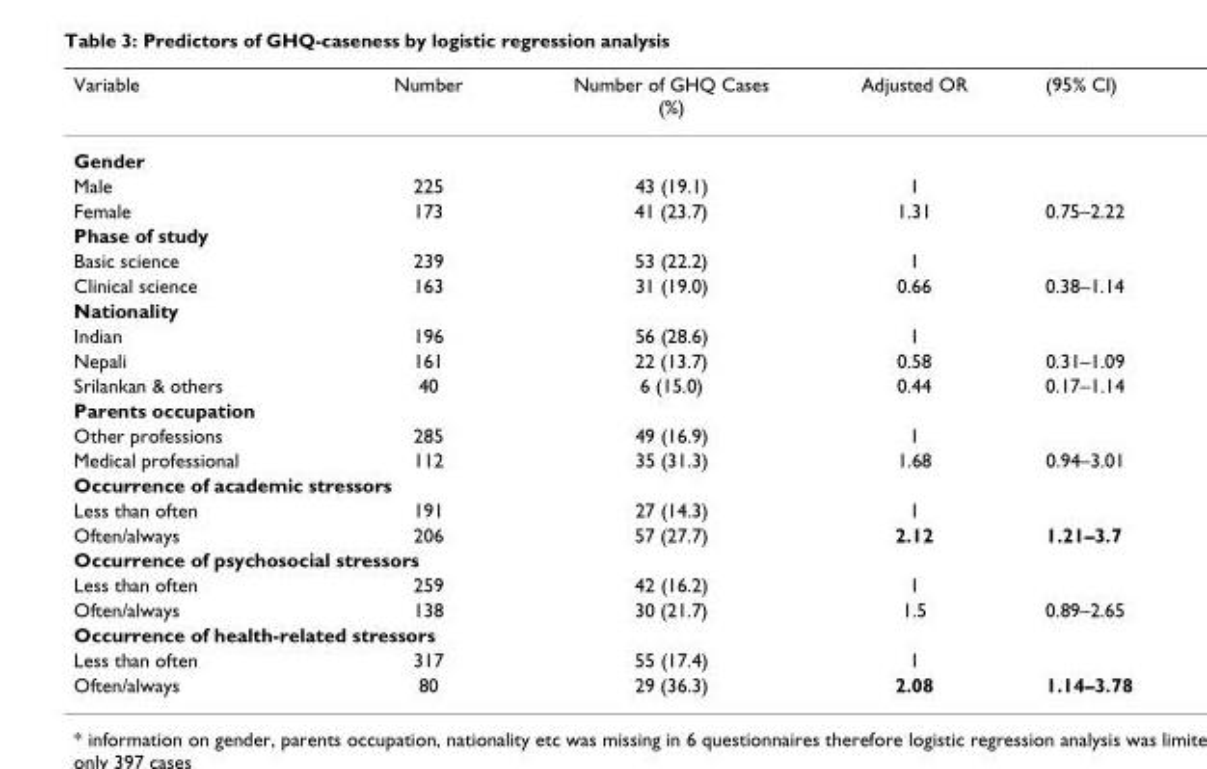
<table><thead><tr><td>Variable</td><td>Number</td><td>Number of GHQ Cases (%)</td><td>Adjusted OR</td><td>(95% CI)</td></tr></thead><tbody><tr><td colspan="5">Gender</td></tr><tr><td>Male</td><td>225</td><td>43 (19.1)</td><td>1</td><td></td></tr><tr><td>Female</td><td>173</td><td>41 (23.7)</td><td>1.31</td><td>0.75–2.22</td></tr><tr><td colspan="5">Phase of study</td></tr><tr><td>Basic science</td><td>239</td><td>53 (22.2)</td><td>1</td><td></td></tr><tr><td>Clinical science</td><td>163</td><td>31 (19.0)</td><td>0.66</td><td>0.38–1.14</td></tr><tr><td colspan="5">Nationality</td></tr><tr><td>Indian</td><td>196</td><td>56 (28.6)</td><td>1</td><td></td></tr><tr><td>Nepali</td><td>161</td><td>22 (13.7)</td><td>0.58</td><td>0.31–1.09</td></tr><tr><td>Srilankan &amp; others</td><td>40</td><td>6 (15.0)</td><td>0.44</td><td>0.17–1.14</td></tr><tr><td colspan="5">Parents occupation</td></tr><tr><td>Other professions</td><td>285</td><td>49 (16.9)</td><td>1</td><td></td></tr><tr><td>Medical professional</td><td>112</td><td>35 (31.3)</td><td>1.68</td><td>0.94–3.01</td></tr><tr><td colspan="5">Occurrence of academic stressors</td></tr><tr><td>Less than often</td><td>191</td><td>27 (14.3)</td><td>1</td><td></td></tr><tr><td>Often/always</td><td>206</td><td>57 (27.7)</td><td>2.12</td><td>1.21–3.7</td></tr><tr><td colspan="5">Occurrence of psychosocial stressors</td></tr><tr><td>Less than often</td><td>259</td><td>42 (16.2)</td><td>1</td><td></td></tr><tr><td>Often/always</td><td>138</td><td>30 (21.7)</td><td>1.5</td><td>0.89–2.65</td></tr><tr><td colspan="5">Occurrence of health-related stressors</td></tr><tr><td>Less than often</td><td>317</td><td>55 (17.4)</td><td>1</td><td></td></tr><tr><td>Often/always</td><td>80</td><td>29 (36.3)</td><td>2.08</td><td>1.14–3.78</td></tr></tbody></table>